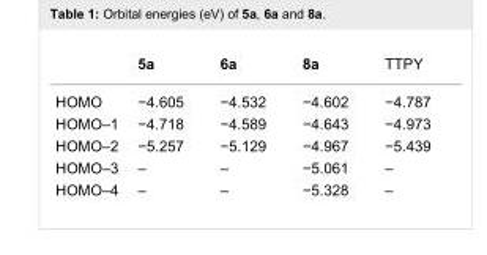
<table><thead><tr><td></td><td>5a</td><td>6a</td><td>8a</td><td>TTPY</td></tr></thead><tbody><tr><td>HOMO</td><td>−4.605</td><td>−4.532</td><td>−4.602</td><td>−4.787</td></tr><tr><td>HOMO–1</td><td>−4.718</td><td>−4.589</td><td>−4.643</td><td>−4.973</td></tr><tr><td>HOMO–2</td><td>−5.257</td><td>−5.129</td><td>−4.967</td><td>−5.439</td></tr><tr><td>HOMO–3</td><td>–</td><td>–</td><td>−5.061</td><td>–</td></tr><tr><td>HOMO–4</td><td>–</td><td>–</td><td>−5.328</td><td>–</td></tr></tbody></table>